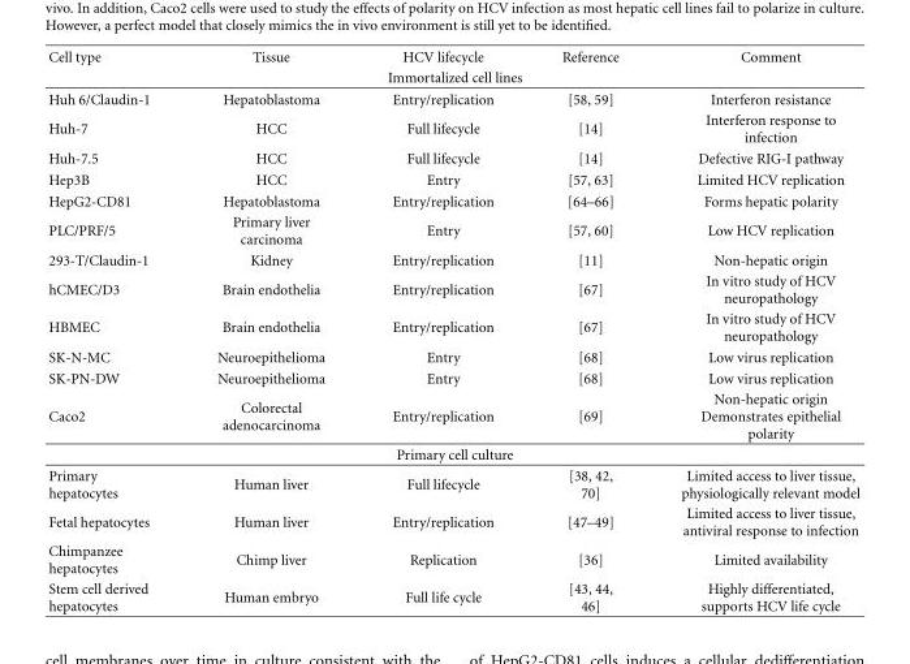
<table><thead><tr><td>Cell type</td><td>Tissue</td><td>HCV lifecycle</td><td>Reference</td><td>Comment</td></tr><tr><td colspan="5">Immortalized cell lines</td></tr></thead><tbody><tr><td>Huh 6/Claudin-1</td><td>Hepatoblastoma</td><td>Entry/replication</td><td>[58, 59]</td><td>Interferon resistance</td></tr><tr><td>Huh-7</td><td>HCC</td><td>Full lifecycle</td><td>[14]</td><td>Interferon response to infection</td></tr><tr><td>Huh-7.5</td><td>HCC</td><td>Full lifecycle</td><td>[14]</td><td>Defective RIG-I pathway</td></tr><tr><td>Hep3B</td><td>HCC</td><td>Entry</td><td>[57, 63]</td><td>Limited HCV replication</td></tr><tr><td>HepG2-CD81</td><td>Hepatoblastoma</td><td>Entry/replication</td><td>[64–66]</td><td>Forms hepatic polarity</td></tr><tr><td>PLC/PRF/5</td><td>Primary liver carcinoma</td><td>Entry</td><td>[57, 60]</td><td>Low HCV replication</td></tr><tr><td>293-T/Claudin-1</td><td>Kidney</td><td>Entry/replication</td><td>[11]</td><td>Non-hepatic origin</td></tr><tr><td>hCMEC/D3</td><td>Brain endothelia</td><td>Entry/replication</td><td>[67]</td><td>In vitro study of HCV neuropathology</td></tr><tr><td>HBMEC</td><td>Brain endothelia</td><td>Entry/replication</td><td>[67]</td><td>In vitro study of HCV neuropathology</td></tr><tr><td>SK-N-MC</td><td>Neuroepithelioma</td><td>Entry</td><td>[68]</td><td>Low virus replication</td></tr><tr><td>SK-PN-DW</td><td>Neuroepithelioma</td><td>Entry</td><td>[68]</td><td>Low virus replication</td></tr><tr><td>Caco2</td><td>Colorectal adenocarcinoma</td><td>Entry/replication</td><td>[69]</td><td>Non-hepatic origin Demonstrates epithelial polarity</td></tr><tr><td colspan="5">Primary cell culture</td></tr><tr><td>Primary hepatocytes</td><td>Human liver</td><td>Full lifecycle</td><td>[38, 42, 70]</td><td>Limited access to liver tissue, physiologically relevant model</td></tr><tr><td>Fetal hepatocytes</td><td>Human liver</td><td>Entry/replication</td><td>[47–49]</td><td>Limited access to liver tissue, antiviral response to infection</td></tr><tr><td>Chimpanzee hepatocytes</td><td>Chimp liver</td><td>Replication</td><td>[36]</td><td>Limited availability</td></tr><tr><td>Stem cell derived hepatocytes</td><td>Human embryo</td><td>Full life cycle</td><td>[43, 44, 46]</td><td>Highly differentiated, supports HCV life cycle</td></tr></tbody></table>